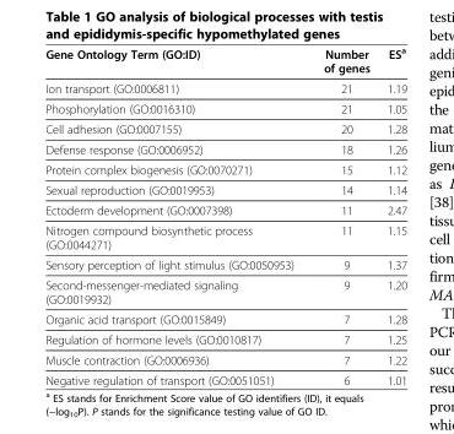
<table><thead><tr><td>Gene Ontology Term (GO:ID)</td><td>Number of genes</td><td>ES<sup>a</sup></td></tr></thead><tbody><tr><td>Ion transport (GO:0006811)</td><td>21</td><td>1.19</td></tr><tr><td>Phosphorylation (GO:0016310)</td><td>21</td><td>1.05</td></tr><tr><td>Cell adhesion (GO:0007155)</td><td>20</td><td>1.28</td></tr><tr><td>Defense response (GO:0006952)</td><td>18</td><td>1.26</td></tr><tr><td>Protein complex biogenesis (GO:0070271)</td><td>15</td><td>1.12</td></tr><tr><td>Sexual reproduction (GO:0019953)</td><td>14</td><td>1.14</td></tr><tr><td>Ectoderm development (GO:0007398)</td><td>11</td><td>2.47</td></tr><tr><td>Nitrogen compound biosynthetic process (GO:0044271)</td><td>11</td><td>1.15</td></tr><tr><td>Sensory perception of light stimulus (GO:0050953)</td><td>9</td><td>1.37</td></tr><tr><td>Second-messenger-mediated signaling (GO:0019932)</td><td>9</td><td>1.20</td></tr><tr><td>Organic acid transport (GO:0015849)</td><td>7</td><td>1.28</td></tr><tr><td>Regulation of hormone levels (GO:0010817)</td><td>7</td><td>1.25</td></tr><tr><td>Muscle contraction (GO:0006936)</td><td>7</td><td>1.22</td></tr><tr><td>Negative regulation of transport (GO:0051051)</td><td>6</td><td>1.01</td></tr></tbody></table>